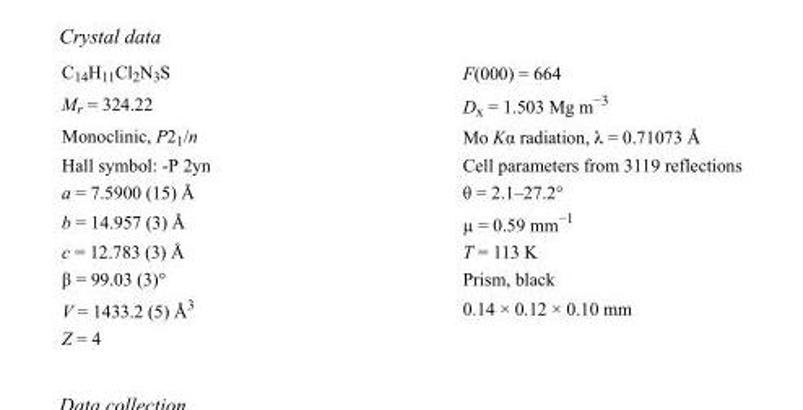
<table><tbody><tr><td>C<sub>14</sub>H<sub>11</sub>Cl<sub>2</sub>N<sub>3</sub>S</td><td>F(000) = 664</td></tr><tr><td>M<sub>r</sub> = 324.22</td><td>D<sub>x</sub> = 1.503 Mg m<sup>−3</sup></td></tr><tr><td>Monoclinic, P2<sub>1</sub>/n</td><td>Mo Kα radiation, λ = 0.71073 Å</td></tr><tr><td>Hall symbol: -P 2yn</td><td>Cell parameters from 3119 reflections</td></tr><tr><td>a = 7.5900 (15) Å</td><td>θ = 2.1–27.2°</td></tr><tr><td>b = 14.957 (3) Å</td><td>µ = 0.59 mm<sup>−1</sup></td></tr><tr><td>c = 12.783 (3) Å</td><td>T = 113 K</td></tr><tr><td>β = 99.03 (3)°</td><td>Prism, black</td></tr><tr><td>V = 1433.2 (5) Å<sup>3</sup></td><td>0.14 × 0.12 × 0.10 mm</td></tr><tr><td>Z = 4</td><td></td></tr></tbody></table>